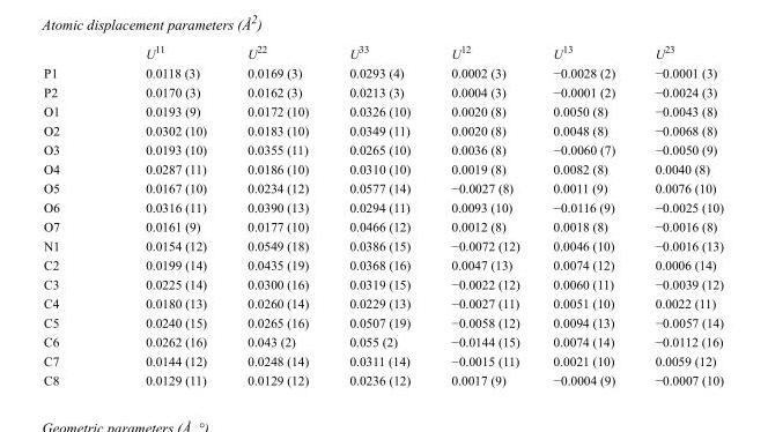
<table><thead><tr><td></td><td>U<sup>11</sup></td><td>U<sup>22</sup></td><td>U<sup>33</sup></td><td>U<sup>12</sup></td><td>U<sup>13</sup></td><td>U<sup>23</sup></td></tr></thead><tbody><tr><td>P1</td><td>0.0118 (3)</td><td>0.0169 (3)</td><td>0.0293 (4)</td><td>0.0002 (3)</td><td>−0.0028 (2)</td><td>−0.0001 (3)</td></tr><tr><td>P2</td><td>0.0170 (3)</td><td>0.0162 (3)</td><td>0.0213 (3)</td><td>0.0004 (3)</td><td>−0.0001 (2)</td><td>−0.0024 (3)</td></tr><tr><td>O1</td><td>0.0193 (9)</td><td>0.0172 (10)</td><td>0.0326 (10)</td><td>0.0020 (8)</td><td>0.0050 (8)</td><td>−0.0043 (8)</td></tr><tr><td>O2</td><td>0.0302 (10)</td><td>0.0183 (10)</td><td>0.0349 (11)</td><td>0.0020 (8)</td><td>0.0048 (8)</td><td>−0.0068 (8)</td></tr><tr><td>O3</td><td>0.0193 (10)</td><td>0.0355 (11)</td><td>0.0265 (10)</td><td>0.0036 (8)</td><td>−0.0060 (7)</td><td>−0.0050 (9)</td></tr><tr><td>O4</td><td>0.0287 (11)</td><td>0.0186 (10)</td><td>0.0310 (10)</td><td>0.0019 (8)</td><td>0.0082 (8)</td><td>0.0040 (8)</td></tr><tr><td>O5</td><td>0.0167 (10)</td><td>0.0234 (12)</td><td>0.0577 (14)</td><td>−0.0027 (8)</td><td>0.0011 (9)</td><td>0.0076 (10)</td></tr><tr><td>O6</td><td>0.0316 (11)</td><td>0.0390 (13)</td><td>0.0294 (11)</td><td>0.0093 (10)</td><td>−0.0116 (9)</td><td>−0.0025 (10)</td></tr><tr><td>O7</td><td>0.0161 (9)</td><td>0.0177 (10)</td><td>0.0466 (12)</td><td>0.0012 (8)</td><td>0.0018 (8)</td><td>−0.0016 (8)</td></tr><tr><td>N1</td><td>0.0154 (12)</td><td>0.0549 (18)</td><td>0.0386 (15)</td><td>−0.0072 (12)</td><td>0.0046 (10)</td><td>−0.0016 (13)</td></tr><tr><td>C2</td><td>0.0199 (14)</td><td>0.0435 (19)</td><td>0.0368 (16)</td><td>0.0047 (13)</td><td>0.0074 (12)</td><td>0.0006 (14)</td></tr><tr><td>C3</td><td>0.0225 (14)</td><td>0.0300 (16)</td><td>0.0319 (15)</td><td>−0.0022 (12)</td><td>0.0060 (11)</td><td>−0.0039 (12)</td></tr><tr><td>C4</td><td>0.0180 (13)</td><td>0.0260 (14)</td><td>0.0229 (13)</td><td>−0.0027 (11)</td><td>0.0051 (10)</td><td>0.0022 (11)</td></tr><tr><td>C5</td><td>0.0240 (15)</td><td>0.0265 (16)</td><td>0.0507 (19)</td><td>−0.0058 (12)</td><td>0.0094 (13)</td><td>−0.0057 (14)</td></tr><tr><td>C6</td><td>0.0262 (16)</td><td>0.043 (2)</td><td>0.055 (2)</td><td>−0.0144 (15)</td><td>0.0074 (14)</td><td>−0.0112 (16)</td></tr><tr><td>C7</td><td>0.0144 (12)</td><td>0.0248 (14)</td><td>0.0311 (14)</td><td>−0.0015 (11)</td><td>0.0021 (10)</td><td>0.0059 (12)</td></tr><tr><td>C8</td><td>0.0129 (11)</td><td>0.0129 (12)</td><td>0.0236 (12)</td><td>0.0017 (9)</td><td>−0.0004 (9)</td><td>−0.0007 (10)</td></tr></tbody></table>